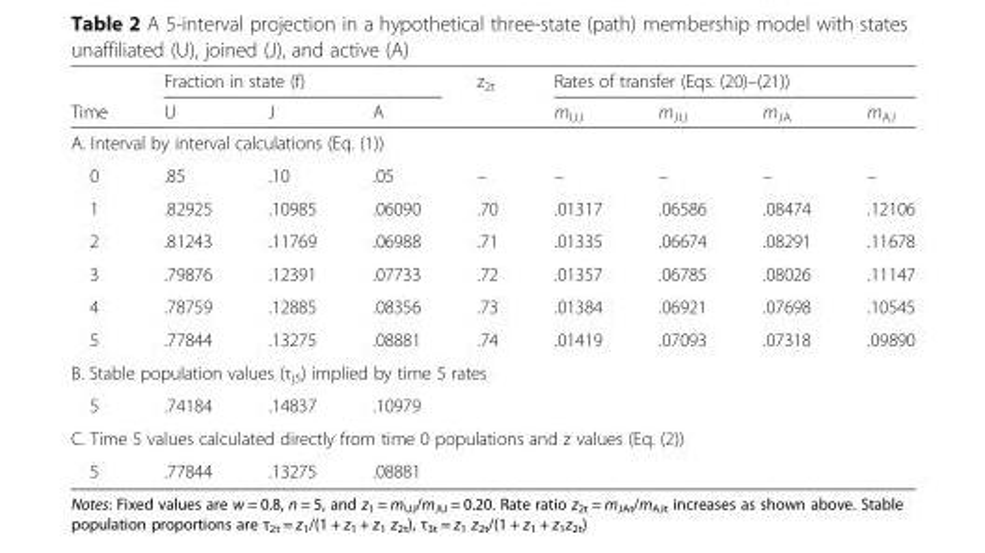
<table><thead><tr><td rowspan="2">Time</td><td colspan="3">Fraction in state (f)</td><td rowspan="2">z<sub>2t</sub></td><td colspan="4">Rates of transfer (Eqs. (20)–(21))</td></tr><tr><td>U</td><td>J</td><td>A</td><td>m<sub>UJ</sub></td><td>m<sub>JU</sub></td><td>m<sub>JA</sub></td><td>m<sub>AJ</sub></td></tr></thead><tbody><tr><td colspan="9">A. Interval by interval calculations (Eq. (1))</td></tr><tr><td>0</td><td>.85</td><td>.10</td><td>.05</td><td>–</td><td>–</td><td>–</td><td>–</td><td>–</td></tr><tr><td>1</td><td>.82925</td><td>.10985</td><td>.06090</td><td>.70</td><td>.01317</td><td>.06586</td><td>.08474</td><td>.12106</td></tr><tr><td>2</td><td>.81243</td><td>.11769</td><td>.06988</td><td>.71</td><td>.01335</td><td>.06674</td><td>.08291</td><td>.11678</td></tr><tr><td>3</td><td>.79876</td><td>.12391</td><td>.07733</td><td>.72</td><td>.01357</td><td>.06785</td><td>.08026</td><td>.11147</td></tr><tr><td>4</td><td>.78759</td><td>.12885</td><td>.08356</td><td>.73</td><td>.01384</td><td>.06921</td><td>.07698</td><td>.10545</td></tr><tr><td>5</td><td>.77844</td><td>.13275</td><td>.08881</td><td>.74</td><td>.01419</td><td>.07093</td><td>.07318</td><td>.09890</td></tr><tr><td colspan="9">B. Stable population values (τ<sub>j5</sub>) implied by time 5 rates</td></tr><tr><td>5</td><td>.74184</td><td>.14837</td><td>.10979</td><td></td><td></td><td></td><td></td><td></td></tr><tr><td colspan="9">C. Time 5 values calculated directly from time 0 populations and z values (Eq. (2))</td></tr><tr><td>5</td><td>.77844</td><td>.13275</td><td>.08881</td><td></td><td></td><td></td><td></td><td></td></tr></tbody></table>